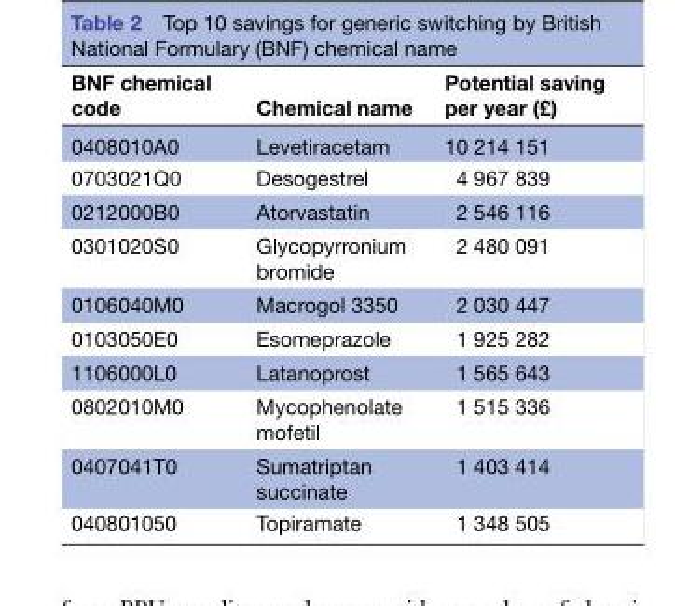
<table><thead><tr><td>BNF chemical code</td><td>Chemical name</td><td>Potential saving per year (£)</td></tr></thead><tbody><tr><td>0408010A0</td><td>Levetiracetam</td><td>10 214 151</td></tr><tr><td>0703021Q0</td><td>Desogestrel</td><td>4 967 839</td></tr><tr><td>0212000B0</td><td>Atorvastatin</td><td>2 546 116</td></tr><tr><td>0301020S0</td><td>Glycopyrronium bromide</td><td>2 480 091</td></tr><tr><td>0106040M0</td><td>Macrogol 3350</td><td>2 030 447</td></tr><tr><td>0103050E0</td><td>Esomeprazole</td><td>1 925 282</td></tr><tr><td>1106000L0</td><td>Latanoprost</td><td>1 565 643</td></tr><tr><td>0802010M0</td><td>Mycophenolate mofetil</td><td>1 515 336</td></tr><tr><td>0407041T0</td><td>Sumatriptan succinate</td><td>1 403 414</td></tr><tr><td>040801050</td><td>Topiramate</td><td>1 348 505</td></tr></tbody></table>